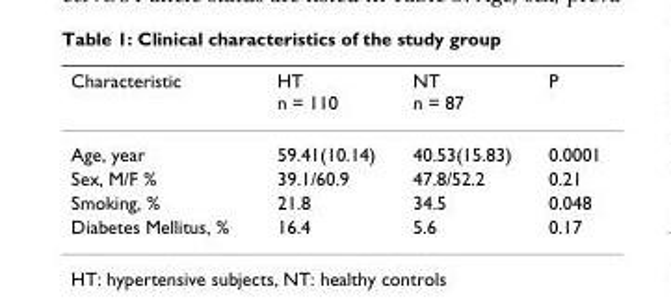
<table><thead><tr><td>Characteristic</td><td>HT n = 110</td><td>NT n = 87</td><td>P</td></tr></thead><tbody><tr><td>Age, year</td><td>59.41(10.14)</td><td>40.53(15.83)</td><td>0.0001</td></tr><tr><td>Sex, M/F %</td><td>39.1/60.9</td><td>47.8/52.2</td><td>0.21</td></tr><tr><td>Smoking, %</td><td>21.8</td><td>34.5</td><td>0.048</td></tr><tr><td>Diabetes Mellitus, %</td><td>16.4</td><td>5.6</td><td>0.17</td></tr></tbody></table>